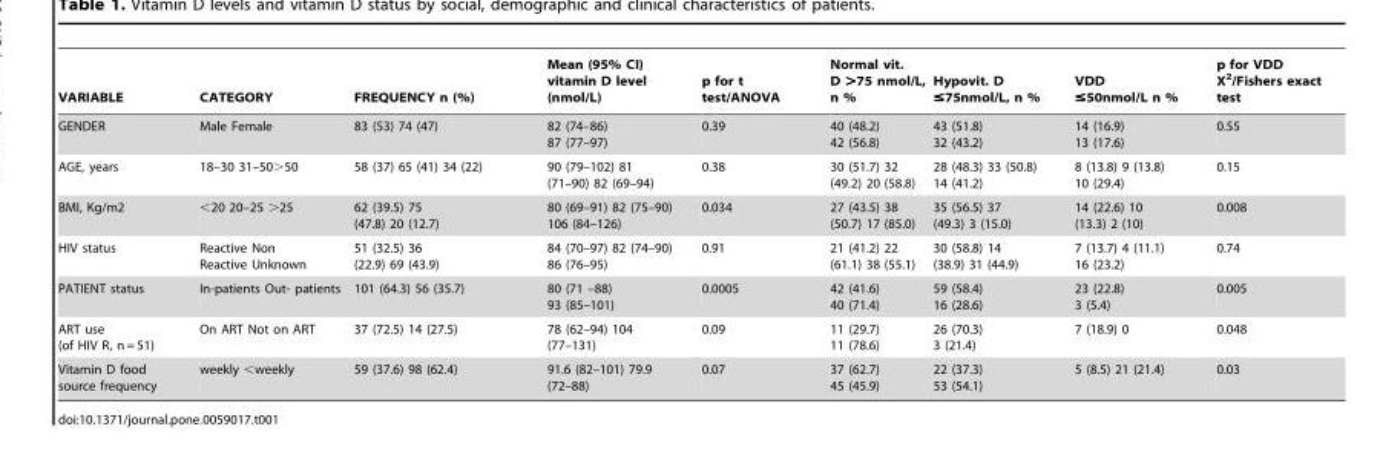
<table><thead><tr><td>VARIABLE</td><td>CATEGORY</td><td>FREQUENCY n (%)</td><td>Mean (95% CI) vitamin D level (nmol/L)</td><td>p for t test/ANOVA</td><td>Normal vit. D &gt;75 nmol/L, n %</td><td>Hypovit. D ≤75nmol/L, n %</td><td>VDD ≤50nmol/L n %</td><td>p for VDD X<sup>2</sup>/Fishers exact test</td></tr></thead><tbody><tr><td>GENDER</td><td>Male Female</td><td>83 (53) 74 (47)</td><td>82 (74–86) 87 (77–97)</td><td>0.39</td><td>40 (48.2) 42 (56.8)</td><td>43 (51.8) 32 (43.2)</td><td>14 (16.9) 13 (17.6)</td><td>0.55</td></tr><tr><td>AGE, years</td><td>18–30 31–50&gt;50</td><td>58 (37) 65 (41) 34 (22)</td><td>90 (79–102) 81 (71–90) 82 (69–94)</td><td>0.38</td><td>30 (51.7) 32 (49.2) 20 (58.8)</td><td>28 (48.3) 33 (50.8) 14 (41.2)</td><td>8 (13.8) 9 (13.8) 10 (29.4)</td><td>0.15</td></tr><tr><td>BMI, Kg/m2</td><td>&lt;20 20–25 &gt;25</td><td>62 (39.5) 75 (47.8) 20 (12.7)</td><td>80 (69–91) 82 (75–90) 106 (84–126)</td><td>0.034</td><td>27 (43.5) 38 (50.7) 17 (85.0)</td><td>35 (56.5) 37 (49.3) 3 (15.0)</td><td>14 (22.6) 10 (13.3) 2 (10)</td><td>0.008</td></tr><tr><td>HIV status</td><td>Reactive Non Reactive Unknown</td><td>51 (32.5) 36 (22.9) 69 (43.9)</td><td>84 (70–97) 82 (74–90) 86 (76–95)</td><td>0.91</td><td>21 (41.2) 22 (61.1) 38 (55.1)</td><td>30 (58.8) 14 (38.9) 31 (44.9)</td><td>7 (13.7) 4 (11.1) 16 (23.2)</td><td>0.74</td></tr><tr><td>PATIENT status</td><td>In-patients Out- patients</td><td>101 (64.3) 56 (35.7)</td><td>80 (71 –88) 93 (85–101)</td><td>0.0005</td><td>42 (41.6) 40 (71.4)</td><td>59 (58.4) 16 (28.6)</td><td>23 (22.8) 3 (5.4)</td><td>0.005</td></tr><tr><td>ART use (of HIV R, n = 51)</td><td>On ART Not on ART</td><td>37 (72.5) 14 (27.5)</td><td>78 (62–94) 104 (77–131)</td><td>0.09</td><td>11 (29.7) 11 (78.6)</td><td>26 (70.3) 3 (21.4)</td><td>7 (18.9) 0</td><td>0.048</td></tr><tr><td>Vitamin D food source frequency</td><td>weekly &lt;weekly</td><td>59 (37.6) 98 (62.4)</td><td>91.6 (82–101) 79.9 (72–88)</td><td>0.07</td><td>37 (62.7) 45 (45.9)</td><td>22 (37.3) 53 (54.1)</td><td>5 (8.5) 21 (21.4)</td><td>0.03</td></tr></tbody></table>